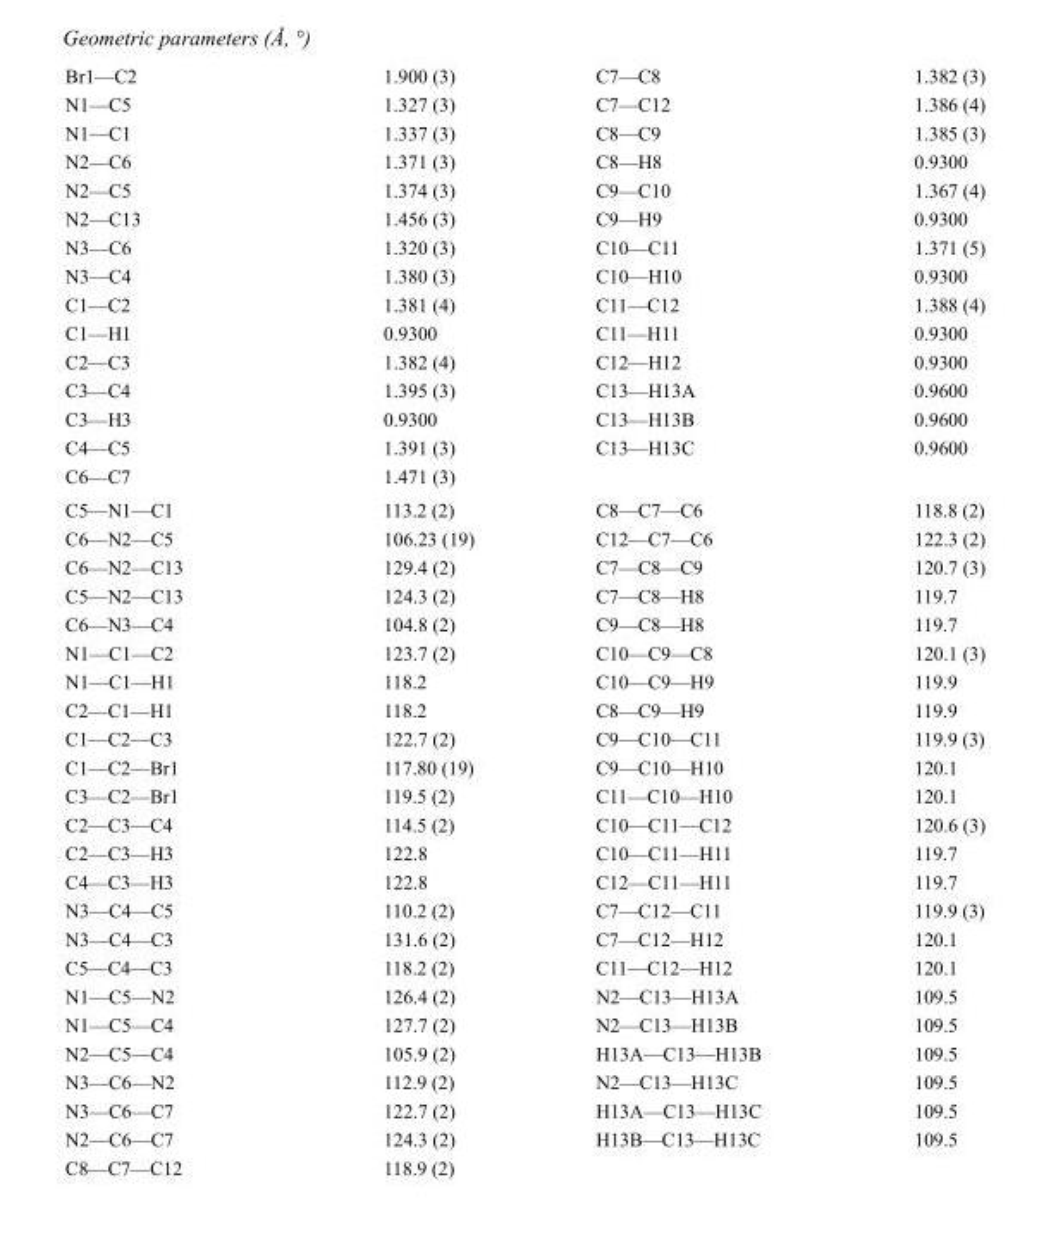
<table><tbody><tr><td>Br1—C2</td><td>1.900 (3)</td><td>C7—C8</td><td>1.382 (3)</td></tr><tr><td>N1—C5</td><td>1.327 (3)</td><td>C7—C12</td><td>1.386 (4)</td></tr><tr><td>N1—C1</td><td>1.337 (3)</td><td>C8—C9</td><td>1.385 (3)</td></tr><tr><td>N2—C6</td><td>1.371 (3)</td><td>C8—H8</td><td>0.9300</td></tr><tr><td>N2—C5</td><td>1.374 (3)</td><td>C9—C10</td><td>1.367 (4)</td></tr><tr><td>N2—C13</td><td>1.456 (3)</td><td>C9—H9</td><td>0.9300</td></tr><tr><td>N3—C6</td><td>1.320 (3)</td><td>C10—C11</td><td>1.371 (5)</td></tr><tr><td>N3—C4</td><td>1.380 (3)</td><td>C10—H10</td><td>0.9300</td></tr><tr><td>C1—C2</td><td>1.381 (4)</td><td>C11—C12</td><td>1.388 (4)</td></tr><tr><td>C1—H1</td><td>0.9300</td><td>C11—H11</td><td>0.9300</td></tr><tr><td>C2—C3</td><td>1.382 (4)</td><td>C12—H12</td><td>0.9300</td></tr><tr><td>C3—C4</td><td>1.395 (3)</td><td>C13—H13A</td><td>0.9600</td></tr><tr><td>C3—H3</td><td>0.9300</td><td>C13—H13B</td><td>0.9600</td></tr><tr><td>C4—C5</td><td>1.391 (3)</td><td>C13—H13C</td><td>0.9600</td></tr><tr><td>C6—C7</td><td>1.471 (3)</td><td></td><td></td></tr><tr><td>C5—N1—C1</td><td>113.2 (2)</td><td>C8—C7—C6</td><td>118.8 (2)</td></tr><tr><td>C6—N2—C5</td><td>106.23 (19)</td><td>C12—C7—C6</td><td>122.3 (2)</td></tr><tr><td>C6—N2—C13</td><td>129.4 (2)</td><td>C7—C8—C9</td><td>120.7 (3)</td></tr><tr><td>C5—N2—C13</td><td>124.3 (2)</td><td>C7—C8—H8</td><td>119.7</td></tr><tr><td>C6—N3—C4</td><td>104.8 (2)</td><td>C9—C8—H8</td><td>119.7</td></tr><tr><td>N1—C1—C2</td><td>123.7 (2)</td><td>C10—C9—C8</td><td>120.1 (3)</td></tr><tr><td>N1—C1—H1</td><td>118.2</td><td>C10—C9—H9</td><td>119.9</td></tr><tr><td>C2—C1—H1</td><td>118.2</td><td>C8—C9—H9</td><td>119.9</td></tr><tr><td>C1—C2—C3</td><td>122.7 (2)</td><td>C9—C10—C11</td><td>119.9 (3)</td></tr><tr><td>C1—C2—Br1</td><td>117.80 (19)</td><td>C9—C10—H10</td><td>120.1</td></tr><tr><td>C3—C2—Br1</td><td>119.5 (2)</td><td>C11—C10—H10</td><td>120.1</td></tr><tr><td>C2—C3—C4</td><td>114.5 (2)</td><td>C10—C11—C12</td><td>120.6 (3)</td></tr><tr><td>C2—C3—H3</td><td>122.8</td><td>C10—C11—H11</td><td>119.7</td></tr><tr><td>C4—C3—H3</td><td>122.8</td><td>C12—C11—H11</td><td>119.7</td></tr><tr><td>N3—C4—C5</td><td>110.2 (2)</td><td>C7—C12—C11</td><td>119.9 (3)</td></tr><tr><td>N3—C4—C3</td><td>131.6 (2)</td><td>C7—C12—H12</td><td>120.1</td></tr><tr><td>C5—C4—C3</td><td>118.2 (2)</td><td>C11—C12—H12</td><td>120.1</td></tr><tr><td>N1—C5—N2</td><td>126.4 (2)</td><td>N2—C13—H13A</td><td>109.5</td></tr><tr><td>N1—C5—C4</td><td>127.7 (2)</td><td>N2—C13—H13B</td><td>109.5</td></tr><tr><td>N2—C5—C4</td><td>105.9 (2)</td><td>H13A—C13—H13B</td><td>109.5</td></tr><tr><td>N3—C6—N2</td><td>112.9 (2)</td><td>N2—C13—H13C</td><td>109.5</td></tr><tr><td>N3—C6—C7</td><td>122.7 (2)</td><td>H13A—C13—H13C</td><td>109.5</td></tr><tr><td>N2—C6—C7</td><td>124.3 (2)</td><td>H13B—C13—H13C</td><td>109.5</td></tr><tr><td>C8—C7—C12</td><td>118.9 (2)</td><td></td><td></td></tr></tbody></table>